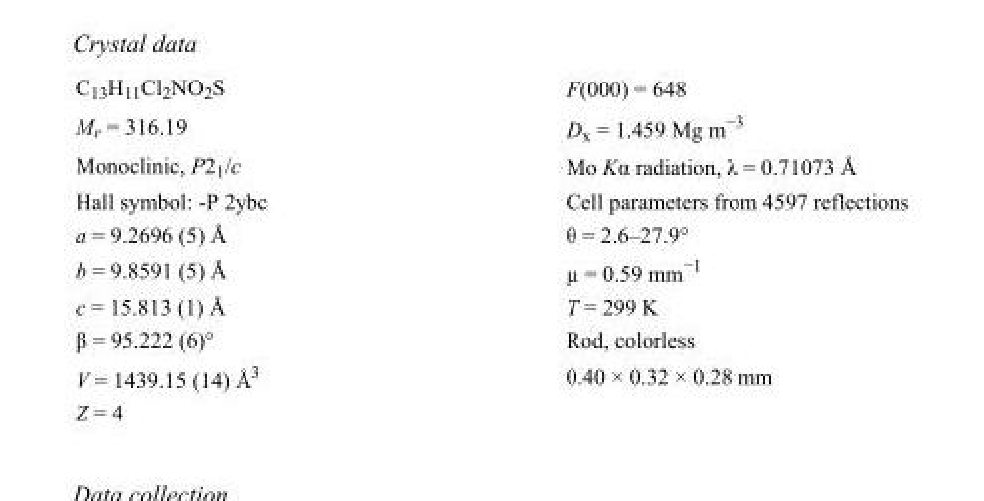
<table><tbody><tr><td>C<sub>13</sub>H<sub>11</sub>Cl<sub>2</sub>NO<sub>2</sub>S</td><td>F(000) = 648</td></tr><tr><td>M<sub>r</sub> = 316.19</td><td>D<sub>x</sub> = 1.459 Mg m<sup>−3</sup></td></tr><tr><td>Monoclinic, P2<sub>1</sub>/c</td><td>Mo Kα radiation, λ = 0.71073 Å</td></tr><tr><td>Hall symbol: -P 2ybc</td><td>Cell parameters from 4597 reflections</td></tr><tr><td>a = 9.2696 (5) Å</td><td>θ = 2.6–27.9°</td></tr><tr><td>b = 9.8591 (5) Å</td><td>µ = 0.59 mm<sup>−1</sup></td></tr><tr><td>c = 15.813 (1) Å</td><td>T = 299 K</td></tr><tr><td>β = 95.222 (6)°</td><td>Rod, colorless</td></tr><tr><td>V = 1439.15 (14) Å<sup>3</sup></td><td>0.40 × 0.32 × 0.28 mm</td></tr><tr><td>Z = 4</td><td></td></tr></tbody></table>